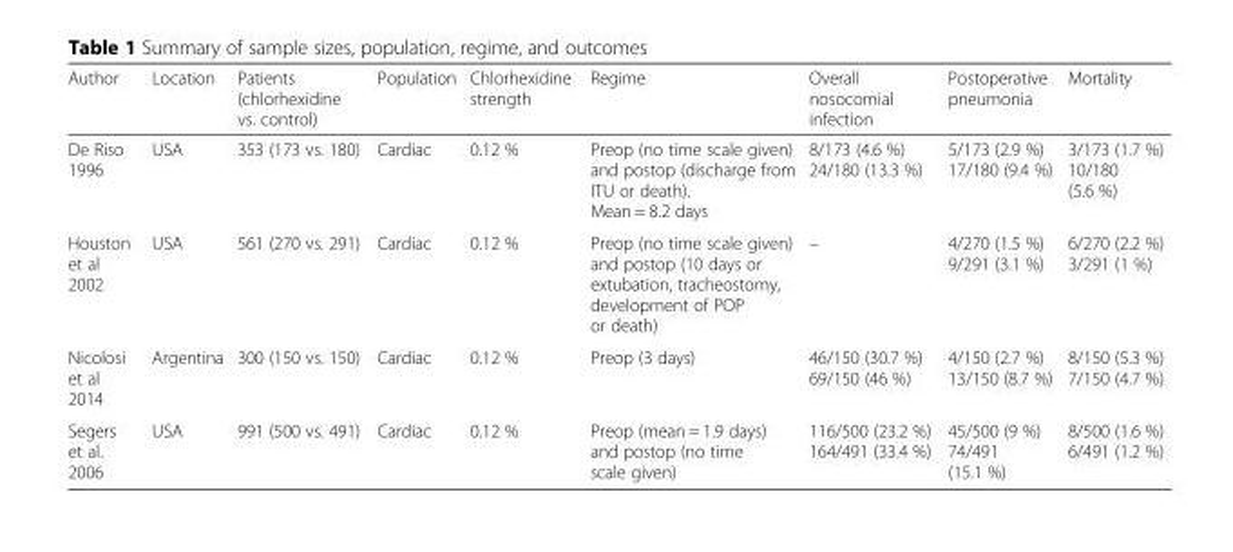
<table><thead><tr><td>Author</td><td>Location</td><td>Patients (chlorhexidine vs. control)</td><td>Population</td><td>Chlorhexidine strength</td><td>Regime</td><td>Overall nosocomial infection</td><td>Postoperative pneumonia</td><td>Mortality</td></tr></thead><tbody><tr><td>De Riso 1996</td><td>USA</td><td>353 (173 vs. 180)</td><td>Cardiac</td><td>0.12 %</td><td>Preop (no time scale given) and postop (discharge from ITU or death). Mean = 8.2 days</td><td>8/173 (4.6 %) 24/180 (13.3 %)</td><td>5/173 (2.9 %) 17/180 (9.4 %)</td><td>3/173 (1.7 %) 10/180 (5.6 %)</td></tr><tr><td>Houston et al 2002</td><td>USA</td><td>561 (270 vs. 291)</td><td>Cardiac</td><td>0.12 %</td><td>Preop (no time scale given) and postop (10 days or extubation, tracheostomy, development of POP or death)</td><td>–</td><td>4/270 (1.5 %) 9/291 (3.1 %)</td><td>6/270 (2.2 %) 3/291 (1 %)</td></tr><tr><td>Nicolosi et al 2014</td><td>Argentina</td><td>300 (150 vs. 150)</td><td>Cardiac</td><td>0.12 %</td><td>Preop (3 days)</td><td>46/150 (30.7 %) 69/150 (46 %)</td><td>4/150 (2.7 %) 13/150 (8.7 %)</td><td>8/150 (5.3 %) 7/150 (4.7 %)</td></tr><tr><td>Segers et al. 2006</td><td>USA</td><td>991 (500 vs. 491)</td><td>Cardiac</td><td>0.12 %</td><td>Preop (mean = 1.9 days) and postop (no time scale given)</td><td>116/500 (23.2 %) 164/491 (33.4 %)</td><td>45/500 (9 %) 74/491 (15.1 %)</td><td>8/500 (1.6 %) 6/491 (1.2 %)</td></tr></tbody></table>